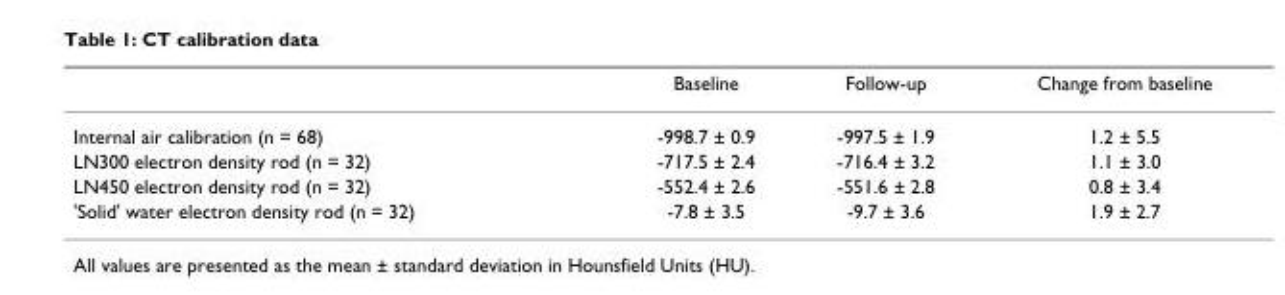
<table><thead><tr><td></td><td>Baseline</td><td>Follow-up</td><td>Change from baseline</td></tr></thead><tbody><tr><td>Internal air calibration (n = 68)</td><td>-998.7 ± 0.9</td><td>-997.5 ± 1.9</td><td>1.2 ± 5.5</td></tr><tr><td>LN300 electron density rod (n = 32)</td><td>-717.5 ± 2.4</td><td>-716.4 ± 3.2</td><td>1.1 ± 3.0</td></tr><tr><td>LN450 electron density rod (n = 32)</td><td>-552.4 ± 2.6</td><td>-551.6 ± 2.8</td><td>0.8 ± 3.4</td></tr><tr><td>&#x27;Solid&#x27; water electron density rod (n = 32)</td><td>-7.8 ± 3.5</td><td>-9.7 ± 3.6</td><td>1.9 ± 2.7</td></tr></tbody></table>